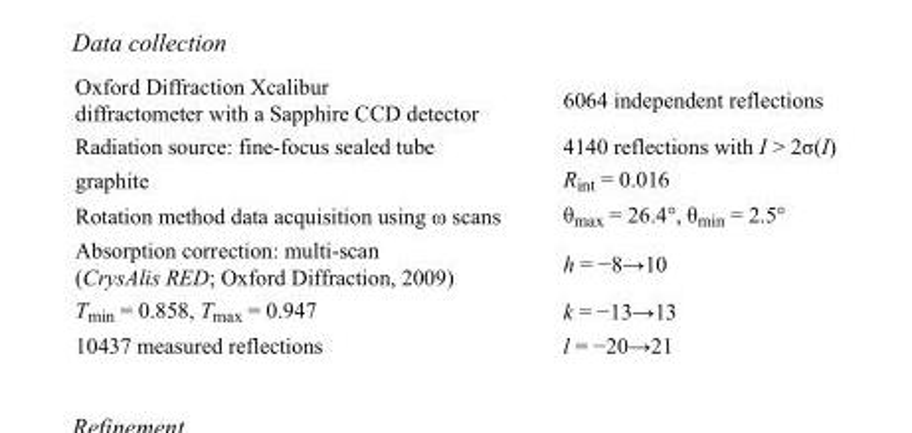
<table><tbody><tr><td>Oxford Diffraction Xcalibur diffractometer with a Sapphire CCD detector</td><td>6064 independent reflections</td></tr><tr><td>Radiation source: fine-focus sealed tube</td><td>4140 reflections with I &gt; 2σ(I)</td></tr><tr><td>graphite</td><td>R<sub>int</sub> = 0.016</td></tr><tr><td>Rotation method data acquisition using ω scans</td><td>θ<sub>max</sub> = 26.4°, θ<sub>min</sub> = 2.5°</td></tr><tr><td>Absorption correction: multi-scan (CrysAlis RED; Oxford Diffraction, 2009)</td><td>h = −8→10</td></tr><tr><td>T<sub>min</sub> = 0.858, T<sub>max</sub> = 0.947</td><td>k = −13→13</td></tr><tr><td>10437 measured reflections</td><td>l = −20→21</td></tr></tbody></table>